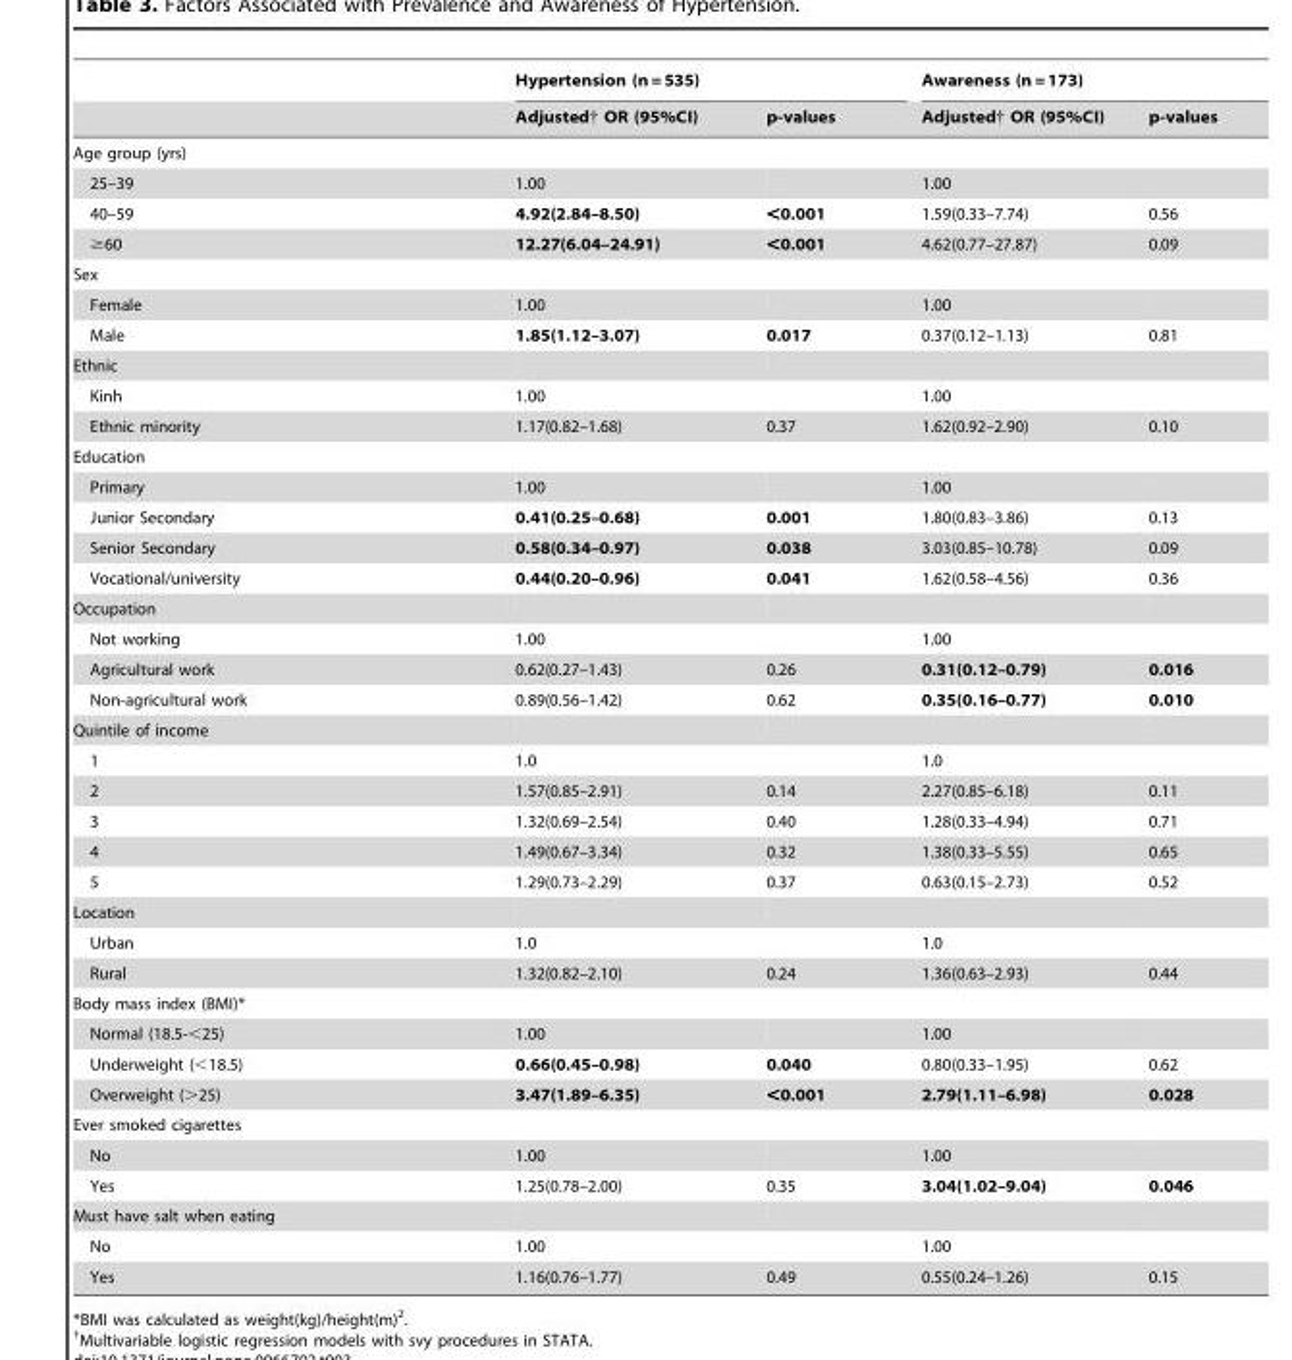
<table><thead><tr><td rowspan="2"></td><td colspan="2">Hypertension (n = 535)</td><td colspan="2">Awareness (n = 173)</td></tr><tr><td>Adjusted† OR (95%CI)</td><td>p-values</td><td>Adjusted† OR (95%CI)</td><td>p-values</td></tr></thead><tbody><tr><td colspan="5">Age group (yrs)</td></tr><tr><td>25–39</td><td>1.00</td><td></td><td>1.00</td><td></td></tr><tr><td>40–59</td><td>4.92(2.84–8.50)</td><td>&lt;0.001</td><td>1.59(0.33–7.74)</td><td>0.56</td></tr><tr><td>≥60</td><td>12.27(6.04–24.91)</td><td>&lt;0.001</td><td>4.62(0.77–27.87)</td><td>0.09</td></tr><tr><td colspan="5">Sex</td></tr><tr><td>Female</td><td>1.00</td><td></td><td>1.00</td><td></td></tr><tr><td>Male</td><td>1.85(1.12–3.07)</td><td>0.017</td><td>0.37(0.12–1.13)</td><td>0.81</td></tr><tr><td colspan="5">Ethnic</td></tr><tr><td>Kinh</td><td>1.00</td><td></td><td>1.00</td><td></td></tr><tr><td>Ethnic minority</td><td>1.17(0.82–1.68)</td><td>0.37</td><td>1.62(0.92–2.90)</td><td>0.10</td></tr><tr><td colspan="5">Education</td></tr><tr><td>Primary</td><td>1.00</td><td></td><td>1.00</td><td></td></tr><tr><td>Junior Secondary</td><td>0.41(0.25–0.68)</td><td>0.001</td><td>1.80(0.83–3.86)</td><td>0.13</td></tr><tr><td>Senior Secondary</td><td>0.58(0.34–0.97)</td><td>0.038</td><td>3.03(0.85–10.78)</td><td>0.09</td></tr><tr><td>Vocational/university</td><td>0.44(0.20–0.96)</td><td>0.041</td><td>1.62(0.58–4.56)</td><td>0.36</td></tr><tr><td colspan="5">Occupation</td></tr><tr><td>Not working</td><td>1.00</td><td></td><td>1.00</td><td></td></tr><tr><td>Agricultural work</td><td>0.62(0.27–1.43)</td><td>0.26</td><td>0.31(0.12–0.79)</td><td>0.016</td></tr><tr><td>Non-agricultural work</td><td>0.89(0.56–1.42)</td><td>0.62</td><td>0.35(0.16–0.77)</td><td>0.010</td></tr><tr><td colspan="5">Quintile of income</td></tr><tr><td>1</td><td>1.0</td><td></td><td>1.0</td><td></td></tr><tr><td>2</td><td>1.57(0.85–2.91)</td><td>0.14</td><td>2.27(0.85–6.18)</td><td>0.11</td></tr><tr><td>3</td><td>1.32(0.69–2.54)</td><td>0.40</td><td>1.28(0.33–4.94)</td><td>0.71</td></tr><tr><td>4</td><td>1.49(0.67–3.34)</td><td>0.32</td><td>1.38(0.33–5.55)</td><td>0.65</td></tr><tr><td>5</td><td>1.29(0.73–2.29)</td><td>0.37</td><td>0.63(0.15–2.73)</td><td>0.52</td></tr><tr><td colspan="5">Location</td></tr><tr><td>Urban</td><td>1.0</td><td></td><td>1.0</td><td></td></tr><tr><td>Rural</td><td>1.32(0.82–2.10)</td><td>0.24</td><td>1.36(0.63–2.93)</td><td>0.44</td></tr><tr><td colspan="5">Body mass index (BMI)*</td></tr><tr><td>Normal (18.5-&lt;25)</td><td>1.00</td><td></td><td>1.00</td><td></td></tr><tr><td>Underweight (&lt;18.5)</td><td>0.66(0.45–0.98)</td><td>0.040</td><td>0.80(0.33–1.95)</td><td>0.62</td></tr><tr><td>Overweight (&gt;25)</td><td>3.47(1.89–6.35)</td><td>&lt;0.001</td><td>2.79(1.11–6.98)</td><td>0.028</td></tr><tr><td colspan="5">Ever smoked cigarettes</td></tr><tr><td>No</td><td>1.00</td><td></td><td>1.00</td><td></td></tr><tr><td>Yes</td><td>1.25(0.78–2.00)</td><td>0.35</td><td>3.04(1.02–9.04)</td><td>0.046</td></tr><tr><td colspan="5">Must have salt when eating</td></tr><tr><td>No</td><td>1.00</td><td></td><td>1.00</td><td></td></tr><tr><td>Yes</td><td>1.16(0.76–1.77)</td><td>0.49</td><td>0.55(0.24–1.26)</td><td>0.15</td></tr></tbody></table>